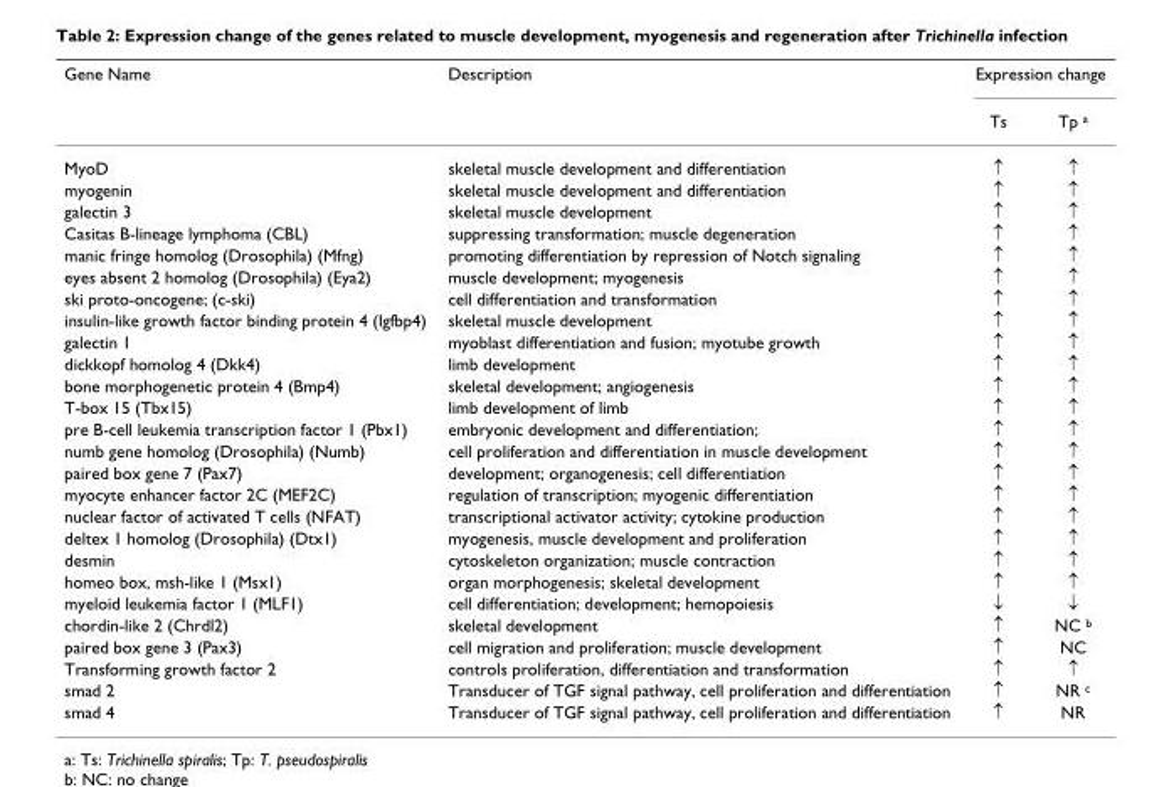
<table><thead><tr><td rowspan="2">Gene Name</td><td rowspan="2">Description</td><td colspan="2">Expression change</td></tr><tr><td>Ts</td><td>Tp <sup>a</sup></td></tr></thead><tbody><tr><td>MyoD</td><td>skeletal muscle development and differentiation</td><td>↑</td><td>↑</td></tr><tr><td>myogenin</td><td>skeletal muscle development and differentiation</td><td>↑</td><td>↑</td></tr><tr><td>galectin 3</td><td>skeletal muscle development</td><td>↑</td><td>↑</td></tr><tr><td>Casitas B-lineage lymphoma (CBL)</td><td>suppressing transformation; muscle degeneration</td><td>↑</td><td>↑</td></tr><tr><td>manic fringe homolog (Drosophila) (Mfng)</td><td>promoting differentiation by repression of Notch signaling</td><td>↑</td><td>↑</td></tr><tr><td>eyes absent 2 homolog (Drosophila) (Eya2)</td><td>muscle development; myogenesis</td><td>↑</td><td>↑</td></tr><tr><td>ski proto-oncogene; (c-ski)</td><td>cell differentiation and transformation</td><td>↑</td><td>↑</td></tr><tr><td>insulin-like growth factor binding protein 4 (Igfbp4)</td><td>skeletal muscle development</td><td>↑</td><td>↑</td></tr><tr><td>galectin 1</td><td>myoblast differentiation and fusion; myotube growth</td><td>↑</td><td>↑</td></tr><tr><td>dickkopf homolog 4 (Dkk4)</td><td>limb development</td><td>↑</td><td>↑</td></tr><tr><td>bone morphogenetic protein 4 (Bmp4)</td><td>skeletal development; angiogenesis</td><td>↑</td><td>↑</td></tr><tr><td>T-box 15 (Tbx15)</td><td>limb development of limb</td><td>↑</td><td>↑</td></tr><tr><td>pre B-cell leukemia transcription factor 1 (Pbx1)</td><td>embryonic development and differentiation;</td><td>↑</td><td>↑</td></tr><tr><td>numb gene homolog (Drosophila) (Numb)</td><td>cell proliferation and differentiation in muscle development</td><td>↑</td><td>↑</td></tr><tr><td>paired box gene 7 (Pax7)</td><td>development; organogenesis; cell differentiation</td><td>↑</td><td>↑</td></tr><tr><td>myocyte enhancer factor 2C (MEF2C)</td><td>regulation of transcription; myogenic differentiation</td><td>↑</td><td>↑</td></tr><tr><td>nuclear factor of activated T cells (NFAT)</td><td>transcriptional activator activity; cytokine production</td><td>↑</td><td>↑</td></tr><tr><td>deltex 1 homolog (Drosophila) (Dtx1)</td><td>myogenesis, muscle development and proliferation</td><td>↑</td><td>↑</td></tr><tr><td>desmin</td><td>cytoskeleton organization; muscle contraction</td><td>↑</td><td>↑</td></tr><tr><td>homeo box, msh-like 1 (Msx1)</td><td>organ morphogenesis; skeletal development</td><td>↑</td><td>↑</td></tr><tr><td>myeloid leukemia factor 1 (MLF1)</td><td>cell differentiation; development; hemopoiesis</td><td>↓</td><td>↓</td></tr><tr><td>chordin-like 2 (Chrdl2)</td><td>skeletal development</td><td>↑</td><td>NC <sup>b</sup></td></tr><tr><td>paired box gene 3 (Pax3)</td><td>cell migration and proliferation; muscle development</td><td>↑</td><td>NC</td></tr><tr><td>Transforming growth factor 2</td><td>controls proliferation, differentiation and transformation</td><td>↑</td><td>↑</td></tr><tr><td>smad 2</td><td>Transducer of TGF signal pathway, cell proliferation and differentiation</td><td>↑</td><td>NR <sup>c</sup></td></tr><tr><td>smad 4</td><td>Transducer of TGF signal pathway, cell proliferation and differentiation</td><td>↑</td><td>NR</td></tr></tbody></table>